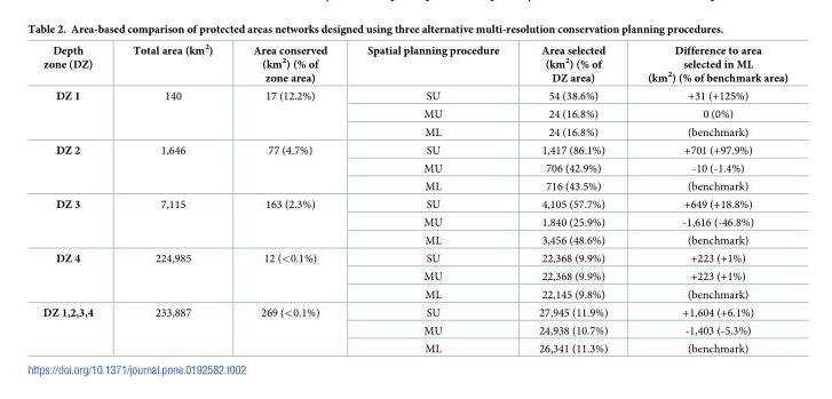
<table><thead><tr><td>Depth zone (DZ)</td><td>Total area (km<sup>2</sup>)</td><td>Area conserved (km<sup>2</sup>) (% of zone area)</td><td>Spatial planning procedure</td><td>Area selected (km<sup>2</sup>) (% of DZ area)</td><td>Difference to area selected in ML (km<sup>2</sup>) (% of benchmark area)</td></tr></thead><tbody><tr><td rowspan="3">DZ 1</td><td rowspan="3">140</td><td rowspan="3">17 (12.2%)</td><td>SU</td><td>54 (38.6%)</td><td>+31 (+125%)</td></tr><tr><td>MU</td><td>24 (16.8%)</td><td>0 (0%)</td></tr><tr><td>ML</td><td>24 (16.8%)</td><td>(benchmark)</td></tr><tr><td rowspan="3">DZ 2</td><td rowspan="3">1,646</td><td rowspan="3">77 (4.7%)</td><td>SU</td><td>1,417 (86.1%)</td><td>+701 (+97.9%)</td></tr><tr><td>MU</td><td>706 (42.9%)</td><td>-10 (-1.4%)</td></tr><tr><td>ML</td><td>716 (43.5%)</td><td>(benchmark)</td></tr><tr><td rowspan="3">DZ 3</td><td rowspan="3">7,115</td><td rowspan="3">163 (2.3%)</td><td>SU</td><td>4,105 (57.7%)</td><td>+649 (+18.8%)</td></tr><tr><td>MU</td><td>1.840 (25.9%)</td><td>-1,616 (-46.8%)</td></tr><tr><td>ML</td><td>3,456 (48.6%)</td><td>(benchmark)</td></tr><tr><td rowspan="3">DZ 4</td><td rowspan="3">224,985</td><td rowspan="3">12 (&lt;0.1%)</td><td>SU</td><td>22,368 (9.9%)</td><td>+223 (+1%)</td></tr><tr><td>MU</td><td>22,368 (9.9%)</td><td>+223 (+1%)</td></tr><tr><td>ML</td><td>22,145 (9.8%)</td><td>(benchmark)</td></tr><tr><td rowspan="3">DZ 1,2,3,4</td><td rowspan="3">233,887</td><td rowspan="3">269 (&lt;0.1%)</td><td>SU</td><td>27,945 (11.9%)</td><td>+1,604 (+6.1%)</td></tr><tr><td>MU</td><td>24,938 (10.7%)</td><td>-1,403 (-5.3%)</td></tr><tr><td>ML</td><td>26,341 (11.3%)</td><td>(benchmark)</td></tr></tbody></table>